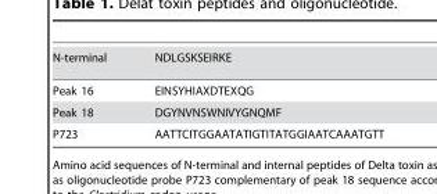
<table><tbody><tr><td>N-terminal</td><td>NDLGSKSEIRKE</td></tr><tr><td>Peak 16</td><td>EINSYHIAXDTEXQG</td></tr><tr><td>Peak 18</td><td>DGYNVNSWNIVYGNQMF</td></tr><tr><td>P723</td><td>AATTCITGGAATATIGTITATGGIAATCAAATGTT</td></tr></tbody></table>